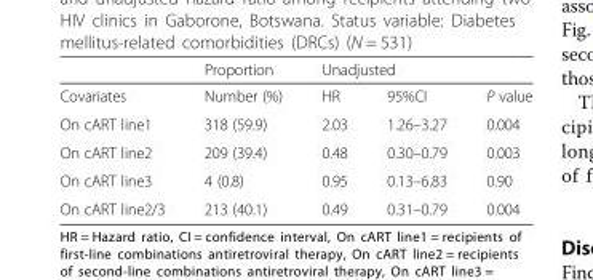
<table><thead><tr><td rowspan="2">Covariates</td><td rowspan="2">Proportion Number (%)</td><td colspan="3">Unadjusted</td></tr><tr><td>HR</td><td>95%CI</td><td>P value</td></tr></thead><tbody><tr><td>On cART line1</td><td>318 (59.9)</td><td>2.03</td><td>1.26–3.27</td><td>0.004</td></tr><tr><td>On cART line2</td><td>209 (39.4)</td><td>0.48</td><td>0.30–0.79</td><td>0.003</td></tr><tr><td>On cART line3</td><td>4 (0.8)</td><td>0.95</td><td>0.13–6.83</td><td>0.90</td></tr><tr><td>On cART line2/3</td><td>213 (40.1)</td><td>0.49</td><td>0.31–0.79</td><td>0.004</td></tr></tbody></table>